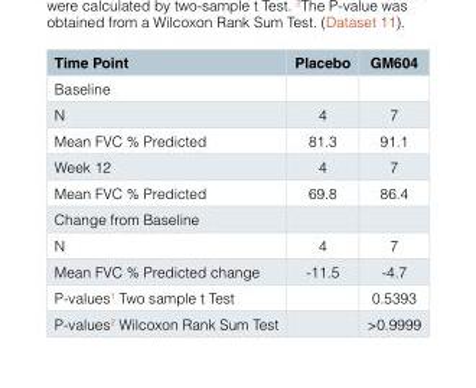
<table><thead><tr><td>Time Point</td><td>Placebo</td><td>GM604</td></tr></thead><tbody><tr><td colspan="3">Baseline</td></tr><tr><td>N</td><td>4</td><td>7</td></tr><tr><td>Mean FVC % Predicted</td><td>81.3</td><td>91.1</td></tr><tr><td>Week 12</td><td>4</td><td>7</td></tr><tr><td>Mean FVC % Predicted</td><td>69.8</td><td>86.4</td></tr><tr><td colspan="3">Change from Baseline</td></tr><tr><td>N</td><td>4</td><td>7</td></tr><tr><td>Mean FVC % Predicted change</td><td>-11.5</td><td>-4.7</td></tr><tr><td>P-values<sup>1</sup> Two sample t Test</td><td></td><td>0.5393</td></tr><tr><td>P-values<sup>2</sup> Wilcoxon Rank Sum Test</td><td></td><td>&gt;0.9999</td></tr></tbody></table>